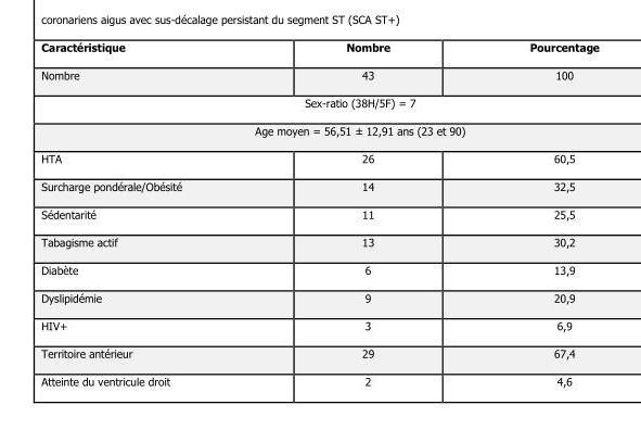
<table><thead><tr><td>Caractéristique</td><td>Nombre</td><td>Pourcentage</td></tr></thead><tbody><tr><td>Nombre</td><td>43</td><td>100</td></tr><tr><td colspan="3">Sex-ratio (38H/5F) = 7</td></tr><tr><td colspan="3">Age moyen = 56,51 ± 12,91 ans (23 et 90)</td></tr><tr><td>HTA</td><td>26</td><td>60,5</td></tr><tr><td>Surcharge pondérale/Obésité</td><td>14</td><td>32,5</td></tr><tr><td>Sédentarité</td><td>11</td><td>25,5</td></tr><tr><td>Tabagisme actif</td><td>13</td><td>30,2</td></tr><tr><td>Diabète</td><td>6</td><td>13,9</td></tr><tr><td>Dyslipidémie</td><td>9</td><td>20,9</td></tr><tr><td>HIV+</td><td>3</td><td>6,9</td></tr><tr><td>Territoire antérieur</td><td>29</td><td>67,4</td></tr><tr><td>Atteinte du ventricule droit</td><td>2</td><td>4,6</td></tr></tbody></table>